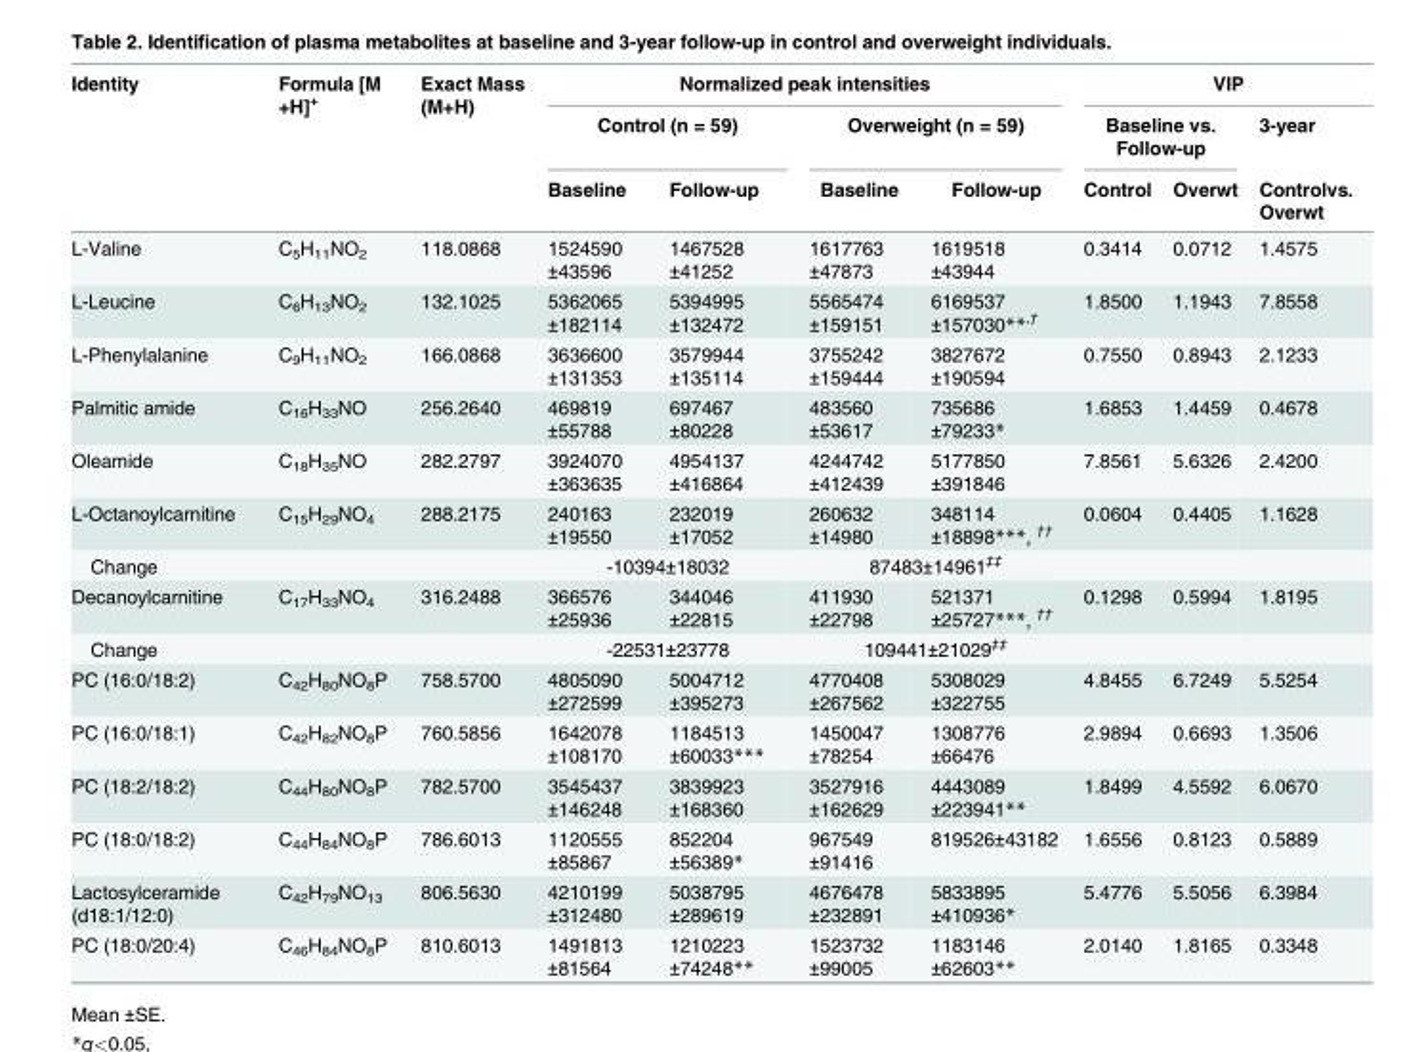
<table><thead><tr><td rowspan="3">Identity</td><td rowspan="3">Formula [M +H]<sup>+</sup></td><td rowspan="3">Exact Mass (M+H)</td><td colspan="4">Normalized peak intensities</td><td colspan="3">VIP</td></tr><tr><td colspan="2">Control (n = 59)</td><td colspan="2">Overweight (n = 59)</td><td colspan="2">Baseline vs. Follow-up</td><td rowspan="2">3-year Controlvs. Overwt</td></tr><tr><td>Baseline</td><td>Follow-up</td><td>Baseline</td><td>Follow-up</td><td>Control</td><td>Overwt</td></tr></thead><tbody><tr><td>L-Valine</td><td>C<sub>5</sub>H<sub>11</sub>NO<sub>2</sub></td><td>118.0868</td><td>1524590 ±43596</td><td>1467528 ±41252</td><td>1617763 ±47873</td><td>1619518 ±43944</td><td>0.3414</td><td>0.0712</td><td>1.4575</td></tr><tr><td>L-Leucine</td><td>C<sub>6</sub>H<sub>13</sub>NO<sub>2</sub></td><td>132.1025</td><td>5362065 ±182114</td><td>5394995 ±132472</td><td>5565474 ±159151</td><td>6169537 ±157030**<sup>,†</sup></td><td>1.8500</td><td>1.1943</td><td>7.8558</td></tr><tr><td>L-Phenylalanine</td><td>C<sub>9</sub>H<sub>11</sub>NO<sub>2</sub></td><td>166.0868</td><td>3636600 ±131353</td><td>3579944 ±135114</td><td>3755242 ±159444</td><td>3827672 ±190594</td><td>0.7550</td><td>0.8943</td><td>2.1233</td></tr><tr><td>Palmitic amide</td><td>C<sub>16</sub>H<sub>33</sub>NO</td><td>256.2640</td><td>469819 ±55788</td><td>697467 ±80228</td><td>483560 ±53617</td><td>735686 ±79233*</td><td>1.6853</td><td>1.4459</td><td>0.4678</td></tr><tr><td>Oleamide</td><td>C<sub>18</sub>H<sub>35</sub>NO</td><td>282.2797</td><td>3924070 ±363635</td><td>4954137 ±416864</td><td>4244742 ±412439</td><td>5177850 ±391846</td><td>7.8561</td><td>5.6326</td><td>2.4200</td></tr><tr><td>L-Octanoylcarnitine</td><td>C<sub>15</sub>H<sub>29</sub>NO<sub>4</sub></td><td>288.2175</td><td>240163 ±19550</td><td>232019 ±17052</td><td>260632 ±14980</td><td>348114 ±18898***, <sup>††</sup></td><td>0.0604</td><td>0.4405</td><td>1.1628</td></tr><tr><td>Change</td><td></td><td></td><td colspan="2">-10394±18032</td><td colspan="2">87483±14961<sup>‡‡</sup></td><td></td><td></td><td></td></tr><tr><td>Decanoylcarnitine</td><td>C<sub>17</sub>H<sub>33</sub>NO<sub>4</sub></td><td>316.2488</td><td>366576 ±25936</td><td>344046 ±22815</td><td>411930 ±22798</td><td>521371 ±25727***, <sup>††</sup></td><td>0.1298</td><td>0.5994</td><td>1.8195</td></tr><tr><td>Change</td><td></td><td></td><td colspan="2">-22531±23778</td><td colspan="2">109441±21029<sup>‡‡</sup></td><td></td><td></td><td></td></tr><tr><td>PC (16:0/18:2)</td><td>C<sub>42</sub>H<sub>80</sub>NO<sub>8</sub>P</td><td>758.5700</td><td>4805090 ±272599</td><td>5004712 ±395273</td><td>4770408 ±267562</td><td>5308029 ±322755</td><td>4.8455</td><td>6.7249</td><td>5.5254</td></tr><tr><td>PC (16:0/18:1)</td><td>C<sub>42</sub>H<sub>82</sub>NO<sub>8</sub>P</td><td>760.5856</td><td>1642078 ±108170</td><td>1184513 ±60033***</td><td>1450047 ±78254</td><td>1308776 ±66476</td><td>2.9894</td><td>0.6693</td><td>1.3506</td></tr><tr><td>PC (18:2/18:2)</td><td>C<sub>44</sub>H<sub>80</sub>NO<sub>8</sub>P</td><td>782.5700</td><td>3545437 ±146248</td><td>3839923 ±168360</td><td>3527916 ±162629</td><td>4443089 ±223941**</td><td>1.8499</td><td>4.5592</td><td>6.0670</td></tr><tr><td>PC (18:0/18:2)</td><td>C<sub>44</sub>H<sub>84</sub>NO<sub>8</sub>P</td><td>786.6013</td><td>1120555 ±85867</td><td>852204 ±56389*</td><td>967549 ±91416</td><td>819526±43182</td><td>1.6556</td><td>0.8123</td><td>0.5889</td></tr><tr><td>Lactosylceramide (d18:1/12:0)</td><td>C<sub>42</sub>H<sub>79</sub>NO<sub>13</sub></td><td>806.5630</td><td>4210199 ±312480</td><td>5038795 ±289619</td><td>4676478 ±232891</td><td>5833895 ±410936*</td><td>5.4776</td><td>5.5056</td><td>6.3984</td></tr><tr><td>PC (18:0/20:4)</td><td>C<sub>46</sub>H<sub>84</sub>NO<sub>8</sub>P</td><td>810.6013</td><td>1491813 ±81564</td><td>1210223 ±74248**</td><td>1523732 ±99005</td><td>1183146 ±62603**</td><td>2.0140</td><td>1.8165</td><td>0.3348</td></tr></tbody></table>